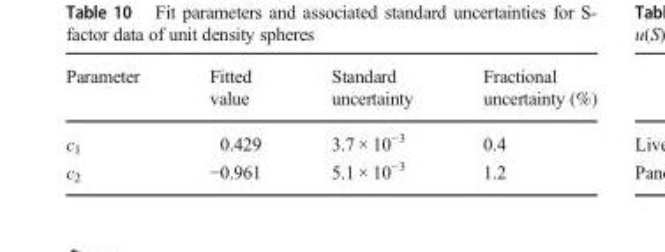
<table><thead><tr><td>Parameter</td><td>Fitted value</td><td>Standard uncertainty</td><td>Fractional uncertainty (%)</td></tr></thead><tbody><tr><td>c<sub>1</sub></td><td>0.429</td><td>3.7 × 10<sup>−3</sup></td><td>0.4</td></tr><tr><td>c<sub>2</sub></td><td>−0.961</td><td>5.1 × 10<sup>−3</sup></td><td>1.2</td></tr></tbody></table>